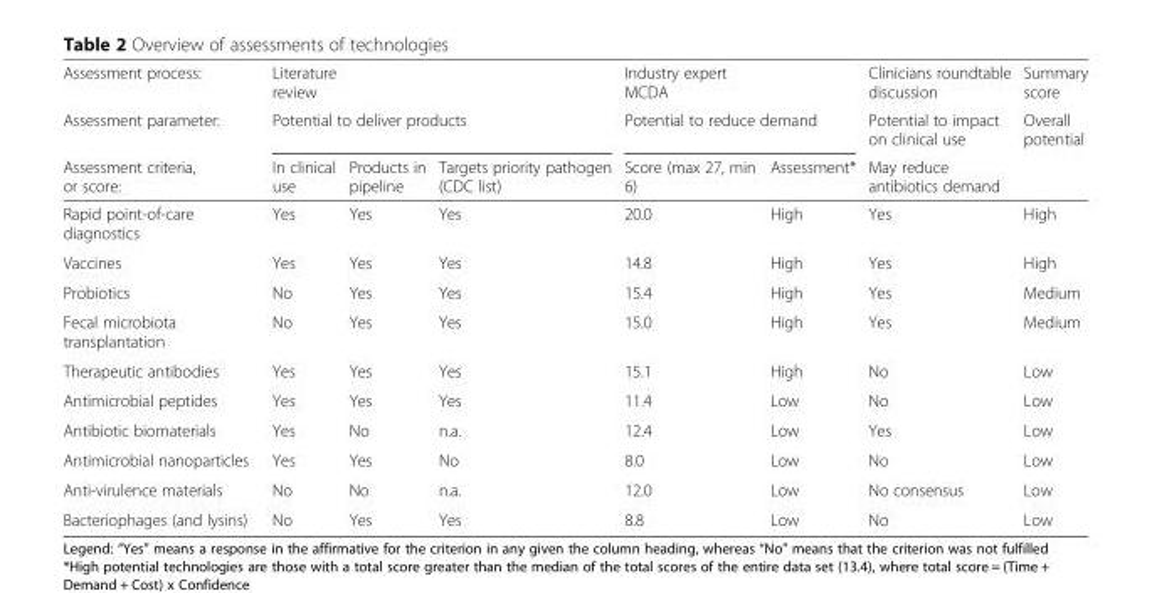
<table><thead><tr><td rowspan="3">Assessment process: Assessment parameter: Assessment criteria, or score:</td><td>Literature review</td><td></td><td></td><td>Industry expert MCDA</td><td></td><td rowspan="3">Clinicians roundtable discussion Potential to impact on clinical use May reduce antibiotics demand</td><td rowspan="3">Summary score Overall potential</td></tr><tr><td colspan="3">Potential to deliver products</td><td colspan="2">Potential to reduce demand</td></tr><tr><td>In clinical use</td><td>Products in pipeline</td><td>Targets priority pathogen (CDC list)</td><td>Score (max 27, min 6)</td><td>Assessment*</td></tr></thead><tbody><tr><td>Rapid point-of-care diagnostics</td><td>Yes</td><td>Yes</td><td>Yes</td><td>20.0</td><td>High</td><td>Yes</td><td>High</td></tr><tr><td>Vaccines</td><td>Yes</td><td>Yes</td><td>Yes</td><td>14.8</td><td>High</td><td>Yes</td><td>High</td></tr><tr><td>Probiotics</td><td>No</td><td>Yes</td><td>Yes</td><td>15.4</td><td>High</td><td>Yes</td><td>Medium</td></tr><tr><td>Fecal microbiota transplantation</td><td>No</td><td>Yes</td><td>Yes</td><td>15.0</td><td>High</td><td>Yes</td><td>Medium</td></tr><tr><td>Therapeutic antibodies</td><td>Yes</td><td>Yes</td><td>Yes</td><td>15.1</td><td>High</td><td>No</td><td>Low</td></tr><tr><td>Antimicrobial peptides</td><td>Yes</td><td>Yes</td><td>Yes</td><td>11.4</td><td>Low</td><td>No</td><td>Low</td></tr><tr><td>Antibiotic biomaterials</td><td>Yes</td><td>No</td><td>n.a.</td><td>12.4</td><td>Low</td><td>Yes</td><td>Low</td></tr><tr><td>Antimicrobial nanoparticles</td><td>Yes</td><td>Yes</td><td>No</td><td>8.0</td><td>Low</td><td>No</td><td>Low</td></tr><tr><td>Anti-virulence materials</td><td>No</td><td>No</td><td>n.a.</td><td>12.0</td><td>Low</td><td>No consensus</td><td>Low</td></tr><tr><td>Bacteriophages (and lysins)</td><td>No</td><td>Yes</td><td>Yes</td><td>8.8</td><td>Low</td><td>No</td><td>Low</td></tr></tbody></table>